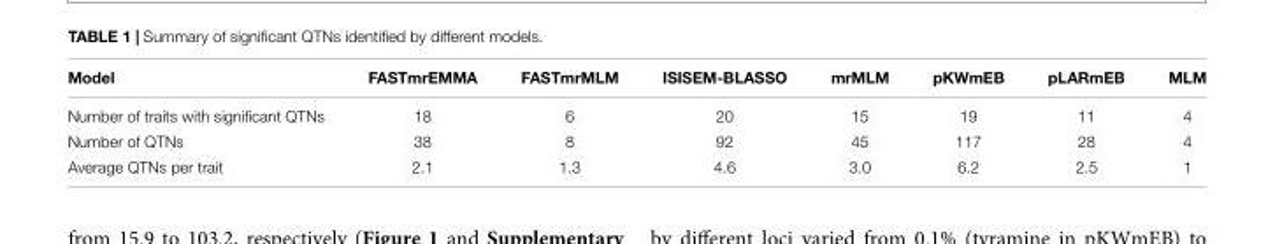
<table><thead><tr><td>Model</td><td>FASTmrEMMA</td><td>FASTmrMLM</td><td>ISISEM-BLASSO</td><td>mrMLM</td><td>pKWmEB</td><td>pLARmEB</td><td>MLM</td></tr></thead><tbody><tr><td>Number of traits with significant QTNs</td><td>18</td><td>6</td><td>20</td><td>15</td><td>19</td><td>11</td><td>4</td></tr><tr><td>Number of QTNs</td><td>38</td><td>8</td><td>92</td><td>45</td><td>117</td><td>28</td><td>4</td></tr><tr><td>Average QTNs per trait</td><td>2.1</td><td>1.3</td><td>4.6</td><td>3.0</td><td>6.2</td><td>2.5</td><td>1</td></tr></tbody></table>